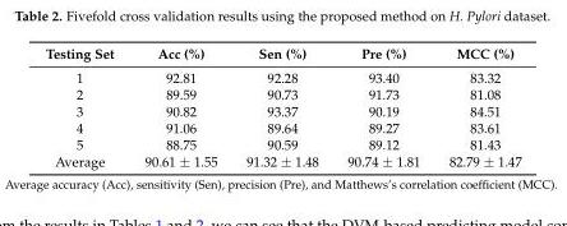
<table><thead><tr><td>Testing Set</td><td>Acc (%)</td><td>Sen (%)</td><td>Pre (%)</td><td>MCC (%)</td></tr></thead><tbody><tr><td>1</td><td>92.81</td><td>92.28</td><td>93.40</td><td>83.32</td></tr><tr><td>2</td><td>89.59</td><td>90.73</td><td>91.73</td><td>81.08</td></tr><tr><td>3</td><td>90.82</td><td>93.37</td><td>90.19</td><td>84.51</td></tr><tr><td>4</td><td>91.06</td><td>89.64</td><td>89.27</td><td>83.61</td></tr><tr><td>5</td><td>88.75</td><td>90.59</td><td>89.12</td><td>81.43</td></tr><tr><td>Average</td><td>90.61 ± 1.55</td><td>91.32 ± 1.48</td><td>90.74 ± 1.81</td><td>82.79 ± 1.47</td></tr></tbody></table>